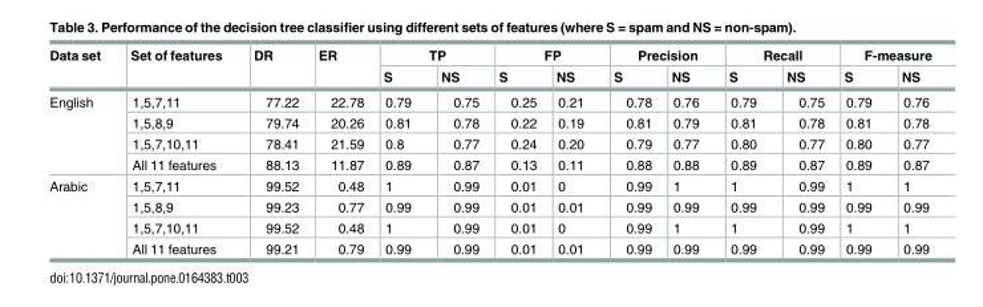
<table><thead><tr><td rowspan="2">Data set</td><td rowspan="2">Set of features</td><td rowspan="2">DR</td><td rowspan="2">ER</td><td colspan="2">TP</td><td colspan="2">FP</td><td colspan="2">Precision</td><td colspan="2">Recall</td><td colspan="2">F-measure</td></tr><tr><td>S</td><td>NS</td><td>S</td><td>NS</td><td>S</td><td>NS</td><td>S</td><td>NS</td><td>S</td><td>NS</td></tr></thead><tbody><tr><td rowspan="4">English</td><td>1,5,7,11</td><td>77.22</td><td>22.78</td><td>0.79</td><td>0.75</td><td>0.25</td><td>0.21</td><td>0.78</td><td>0.76</td><td>0.79</td><td>0.75</td><td>0.79</td><td>0.76</td></tr><tr><td>1,5,8,9</td><td>79.74</td><td>20.26</td><td>0.81</td><td>0.78</td><td>0.22</td><td>0.19</td><td>0.81</td><td>0.79</td><td>0.81</td><td>0.78</td><td>0.81</td><td>0.78</td></tr><tr><td>1,5,7,10,11</td><td>78.41</td><td>21.59</td><td>0.8</td><td>0.77</td><td>0.24</td><td>0.20</td><td>0.79</td><td>0.77</td><td>0.80</td><td>0.77</td><td>0.80</td><td>0.77</td></tr><tr><td>All 11 features</td><td>88.13</td><td>11.87</td><td>0.89</td><td>0.87</td><td>0.13</td><td>0.11</td><td>0.88</td><td>0.88</td><td>0.89</td><td>0.87</td><td>0.89</td><td>0.87</td></tr><tr><td rowspan="4">Arabic</td><td>1,5,7,11</td><td>99.52</td><td>0.48</td><td>1</td><td>0.99</td><td>0.01</td><td>0</td><td>0.99</td><td>1</td><td>1</td><td>0.99</td><td>1</td><td>1</td></tr><tr><td>1,5,8,9</td><td>99.23</td><td>0.77</td><td>0.99</td><td>0.99</td><td>0.01</td><td>0.01</td><td>0.99</td><td>0.99</td><td>0.99</td><td>0.99</td><td>0.99</td><td>0.99</td></tr><tr><td>1,5,7,10,11</td><td>99.52</td><td>0.48</td><td>1</td><td>0.99</td><td>0.01</td><td>0</td><td>0.99</td><td>1</td><td>1</td><td>0.99</td><td>1</td><td>1</td></tr><tr><td>All 11 features</td><td>99.21</td><td>0.79</td><td>0.99</td><td>0.99</td><td>0.01</td><td>0.01</td><td>0.99</td><td>0.99</td><td>0.99</td><td>0.99</td><td>0.99</td><td>0.99</td></tr></tbody></table>